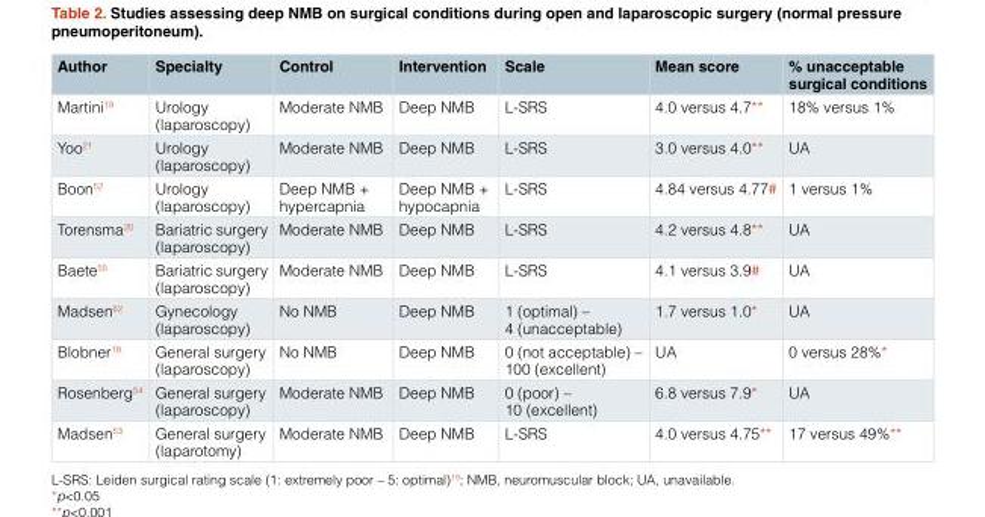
<table><thead><tr><td>Author</td><td>Specialty</td><td>Control</td><td>Intervention</td><td>Scale</td><td>Mean score</td><td>% unacceptable surgical conditions</td></tr></thead><tbody><tr><td>Martini<sup>19</sup></td><td>Urology (laparoscopy)</td><td>Moderate NMB</td><td>Deep NMB</td><td>L-SRS</td><td>4.0 versus 4.7**</td><td>18% versus 1%</td></tr><tr><td>Yoo<sup>21</sup></td><td>Urology (laparoscopy)</td><td>Moderate NMB</td><td>Deep NMB</td><td>L-SRS</td><td>3.0 versus 4.0**</td><td>UA</td></tr><tr><td>Boon<sup>52</sup></td><td>Urology (laparoscopy)</td><td>Deep NMB + hypercapnia</td><td>Deep NMB + hypocapnia</td><td>L-SRS</td><td>4.84 versus 4.77#</td><td>1 versus 1%</td></tr><tr><td>Torensma<sup>20</sup></td><td>Bariatric surgery (laparoscopy)</td><td>Moderate NMB</td><td>Deep NMB</td><td>L-SRS</td><td>4.2 versus 4.8**</td><td>UA</td></tr><tr><td>Baete<sup>55</sup></td><td>Bariatric surgery (laparoscopy)</td><td>Moderate NMB</td><td>Deep NMB</td><td>L-SRS</td><td>4.1 versus 3.9#</td><td>UA</td></tr><tr><td>Madsen<sup>62</sup></td><td>Gynecology (laparoscopy)</td><td>No NMB</td><td>Deep NMB</td><td>1 (optimal) – 4 (unacceptable)</td><td>1.7 versus 1.0*</td><td>UA</td></tr><tr><td>Blobner<sup>18</sup></td><td>General surgery (laparoscopy)</td><td>No NMB</td><td>Deep NMB</td><td>0 (not acceptable) – 100 (excellent)</td><td>UA</td><td>0 versus 28%*</td></tr><tr><td>Rosenberg<sup>54</sup></td><td>General surgery (laparoscopy)</td><td>Moderate NMB</td><td>Deep NMB</td><td>0 (poor) – 10 (excellent)</td><td>6.8 versus 7.9*</td><td>UA</td></tr><tr><td>Madsen<sup>53</sup></td><td>General surgery (laparotomy)</td><td>Moderate NMB</td><td>Deep NMB</td><td>L-SRS</td><td>4.0 versus 4.75**</td><td>17 versus 49%**</td></tr></tbody></table>